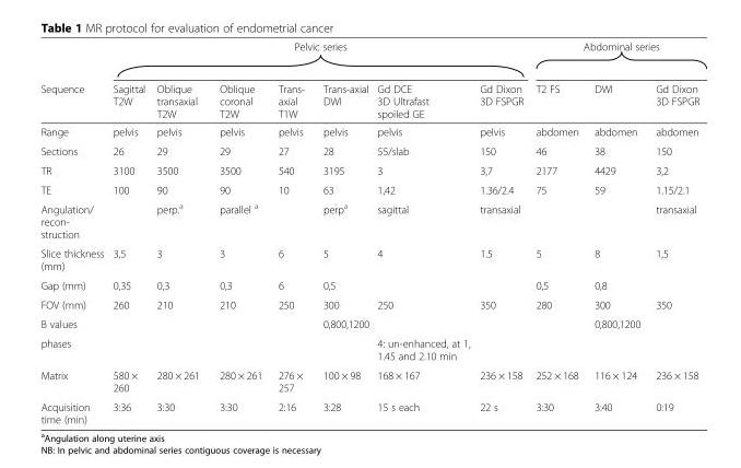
<table><thead><tr><td rowspan="2">Sequence</td><td colspan="7">Pelvic series</td><td colspan="3">Abdominal series</td></tr><tr><td>Sagittal T2W</td><td>Oblique transaxial T2W</td><td>Oblique coronal T2W</td><td>Trans- axial T1W</td><td>Trans-axial DWI</td><td>Gd DCE 3D Ultrafast spoiled GE</td><td>Gd Dixon 3D FSPGR</td><td>T2 FS</td><td>DWI</td><td>Gd Dixon 3D FSPGR</td></tr></thead><tbody><tr><td>Range</td><td>pelvis</td><td>pelvis</td><td>pelvis</td><td>pelvis</td><td>pelvis</td><td>pelvis</td><td>pelvis</td><td>abdomen</td><td>abdomen</td><td>abdomen</td></tr><tr><td>Sections</td><td>26</td><td>29</td><td>29</td><td>27</td><td>28</td><td>55/slab</td><td>150</td><td>46</td><td>38</td><td>150</td></tr><tr><td>TR</td><td>3100</td><td>3500</td><td>3500</td><td>540</td><td>3195</td><td>3</td><td>3,7</td><td>2177</td><td>4429</td><td>3,2</td></tr><tr><td>TE</td><td>100</td><td>90</td><td>90</td><td>10</td><td>63</td><td>1,42</td><td>1.36/2.4</td><td>75</td><td>59</td><td>1.15/2.1</td></tr><tr><td>Angulation/ recon- struction</td><td></td><td>perp.<sup>a</sup></td><td>parallel <sup>a</sup></td><td></td><td>perp<sup>a</sup></td><td>sagittal</td><td>transaxial</td><td></td><td></td><td>transaxial</td></tr><tr><td>Slice thickness (mm)</td><td>3,5</td><td>3</td><td>3</td><td>6</td><td>5</td><td>4</td><td>1.5</td><td>5</td><td>8</td><td>1,5</td></tr><tr><td>Gap (mm)</td><td>0,35</td><td>0,3</td><td>0,3</td><td>6</td><td>0,5</td><td></td><td></td><td>0,5</td><td>0,8</td><td></td></tr><tr><td>FOV (mm)</td><td>260</td><td>210</td><td>210</td><td>250</td><td>300</td><td>250</td><td>350</td><td>280</td><td>300</td><td>350</td></tr><tr><td>B values</td><td></td><td></td><td></td><td></td><td>0,800,1200</td><td></td><td></td><td></td><td>0,800,1200</td><td></td></tr><tr><td>phases</td><td></td><td></td><td></td><td></td><td></td><td>4: un-enhanced, at 1, 1.45 and 2.10 min</td><td></td><td></td><td></td><td></td></tr><tr><td>Matrix</td><td>580 × 260</td><td>280 × 261</td><td>280 × 261</td><td>276 × 257</td><td>100 × 98</td><td>168 × 167</td><td>236 × 158</td><td>252 × 168</td><td>116 × 124</td><td>236 × 158</td></tr><tr><td>Acquisition time (min)</td><td>3:36</td><td>3:30</td><td>3:30</td><td>2:16</td><td>3:28</td><td>15 s each</td><td>22 s</td><td>3:30</td><td>3:40</td><td>0:19</td></tr></tbody></table>